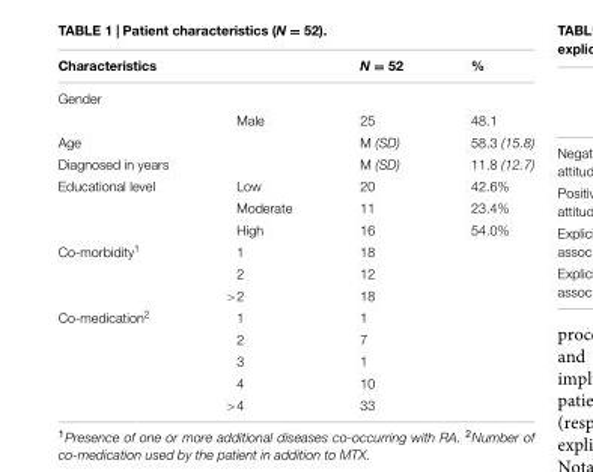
<table><thead><tr><td>Characteristics</td><td></td><td>N = 52</td><td>%</td></tr></thead><tbody><tr><td colspan="4">Gender</td></tr><tr><td></td><td>Male</td><td>25</td><td>48.1</td></tr><tr><td>Age</td><td></td><td>M (SD)</td><td>58.3 (15.8)</td></tr><tr><td>Diagnosed in years</td><td></td><td>M (SD)</td><td>11.8 (12.7)</td></tr><tr><td rowspan="3">Educational level</td><td>Low</td><td>20</td><td>42.6%</td></tr><tr><td>Moderate</td><td>11</td><td>23.4%</td></tr><tr><td>High</td><td>16</td><td>54.0%</td></tr><tr><td rowspan="3">Co-morbidity<sup>1</sup></td><td>1</td><td>18</td><td></td></tr><tr><td>2</td><td>12</td><td></td></tr><tr><td>&gt;2</td><td>18</td><td></td></tr><tr><td rowspan="5">Co-medication<sup>2</sup></td><td>1</td><td>1</td><td></td></tr><tr><td>2</td><td>7</td><td></td></tr><tr><td>3</td><td>1</td><td></td></tr><tr><td>4</td><td>10</td><td></td></tr><tr><td>&gt;4</td><td>33</td><td></td></tr></tbody></table>